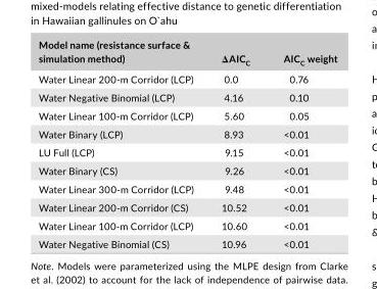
<table><thead><tr><td>Model name (resistance surface &amp; simulation method)</td><td>ΔAIC<sub>C</sub></td><td>AIC<sub>C</sub> weight</td></tr></thead><tbody><tr><td>Water Linear 200- m Corridor (LCP)</td><td>0.0</td><td>0.76</td></tr><tr><td>Water Negative Binomial (LCP)</td><td>4.16</td><td>0.10</td></tr><tr><td>Water Linear 100- m Corridor (LCP)</td><td>5.60</td><td>0.05</td></tr><tr><td>Water Binary (LCP)</td><td>8.93</td><td>&lt;0.01</td></tr><tr><td>LU Full (LCP)</td><td>9.15</td><td>&lt;0.01</td></tr><tr><td>Water Binary (CS)</td><td>9.26</td><td>&lt;0.01</td></tr><tr><td>Water Linear 300- m Corridor (LCP)</td><td>9.48</td><td>&lt;0.01</td></tr><tr><td>Water Linear 200- m Corridor (CS)</td><td>10.52</td><td>&lt;0.01</td></tr><tr><td>Water Linear 100- m Corridor (LCP)</td><td>10.60</td><td>&lt;0.01</td></tr><tr><td>Water Negative Binomial (CS)</td><td>10.96</td><td>&lt;0.01</td></tr></tbody></table>